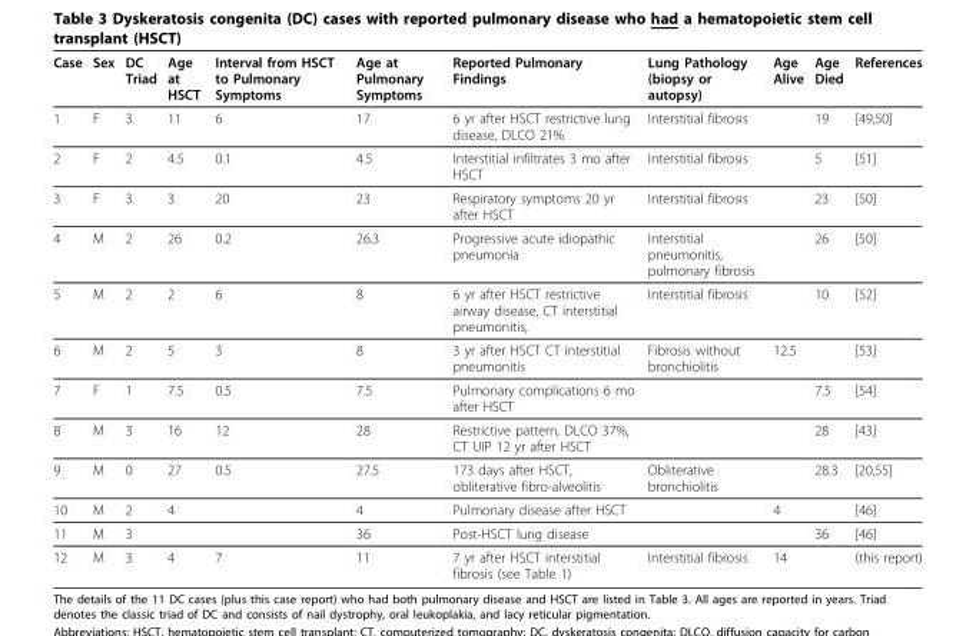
<table><thead><tr><td>Case</td><td>Sex</td><td>DC Triad</td><td>Age at HSCT</td><td>Interval from HSCT to Pulmonary Symptoms</td><td>Age at Pulmonary Symptoms</td><td>Reported Pulmonary Findings</td><td>Lung Pathology (biopsy or autopsy)</td><td>Age Alive</td><td>Age Died</td><td>References</td></tr></thead><tbody><tr><td>1</td><td>F</td><td>3</td><td>11</td><td>6</td><td>17</td><td>6 yr after HSCT restrictive lung disease, DLCO 21%</td><td>Interstitial fibrosis</td><td></td><td>19</td><td>[49,50]</td></tr><tr><td>2</td><td>F</td><td>2</td><td>4.5</td><td>0.1</td><td>4.5</td><td>Interstitial infiltrates 3 mo after HSCT</td><td>Interstitial fibrosis</td><td></td><td>5</td><td>[51]</td></tr><tr><td>3</td><td>F</td><td>3</td><td>3</td><td>20</td><td>23</td><td>Respiratory symptoms 20 yr after HSCT</td><td>Interstitial fibrosis</td><td></td><td>23</td><td>[50]</td></tr><tr><td>4</td><td>M</td><td>2</td><td>26</td><td>0.2</td><td>26.3</td><td>Progressive acute idiopathic pneumonia</td><td>Interstitial pneumonitis, pulmonary fibrosis</td><td></td><td>26</td><td>[50]</td></tr><tr><td>5</td><td>M</td><td>2</td><td>2</td><td>6</td><td>8</td><td>6 yr after HSCT restrictive airway disease, CT interstitial pneumonitis,</td><td>Interstitial fibrosis</td><td></td><td>10</td><td>[52]</td></tr><tr><td>6</td><td>M</td><td>2</td><td>5</td><td>3</td><td>8</td><td>3 yr after HSCT CT interstitial pneumonitis</td><td>Fibrosis without bronchiolitis</td><td>12.5</td><td></td><td>[53]</td></tr><tr><td>7</td><td>F</td><td>1</td><td>7.5</td><td>0.5</td><td>7.5</td><td>Pulmonary complications 6 mo after HSCT</td><td></td><td></td><td>7.5</td><td>[54]</td></tr><tr><td>8</td><td>M</td><td>3</td><td>16</td><td>12</td><td>28</td><td>Restrictive pattern, DLCO 37%, CT UIP 12 yr after HSCT</td><td></td><td></td><td>28</td><td>[43]</td></tr><tr><td>9</td><td>M</td><td>0</td><td>27</td><td>0.5</td><td>27.5</td><td>173 days after HSCT, obliterative fibro-alveolitis</td><td>Obliterative bronchiolitis</td><td></td><td>28.3</td><td>[20,55]</td></tr><tr><td>10</td><td>M</td><td>2</td><td>4</td><td></td><td>4</td><td>Pulmonary disease after HSCT</td><td></td><td>4</td><td></td><td>[46]</td></tr><tr><td>11</td><td>M</td><td>3</td><td></td><td></td><td>36</td><td>Post-HSCT lung disease</td><td></td><td></td><td>36</td><td>[46]</td></tr><tr><td>12</td><td>M</td><td>3</td><td>4</td><td>7</td><td>11</td><td>7 yr after HSCT interstitial fibrosis (see Table 1)</td><td>Interstitial fibrosis</td><td>14</td><td></td><td>(this report)</td></tr></tbody></table>